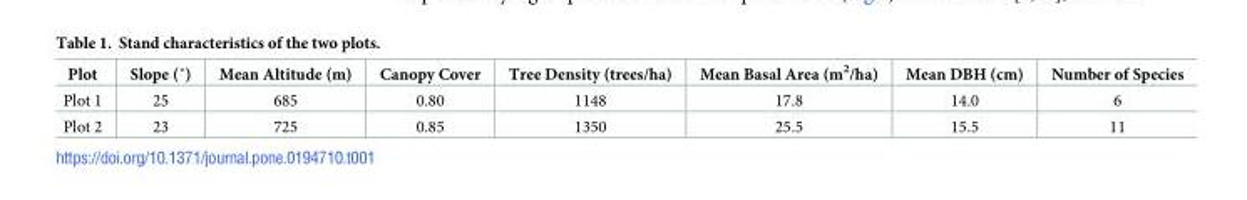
<table><thead><tr><td>Plot</td><td>Slope (˚)</td><td>Mean Altitude (m)</td><td>Canopy Cover</td><td>Tree Density (trees/ha)</td><td>Mean Basal Area (m<sup>2</sup>/ha)</td><td>Mean DBH (cm)</td><td>Number of Species</td></tr></thead><tbody><tr><td>Plot 1</td><td>25</td><td>685</td><td>0.80</td><td>1148</td><td>17.8</td><td>14.0</td><td>6</td></tr><tr><td>Plot 2</td><td>23</td><td>725</td><td>0.85</td><td>1350</td><td>25.5</td><td>15.5</td><td>11</td></tr></tbody></table>